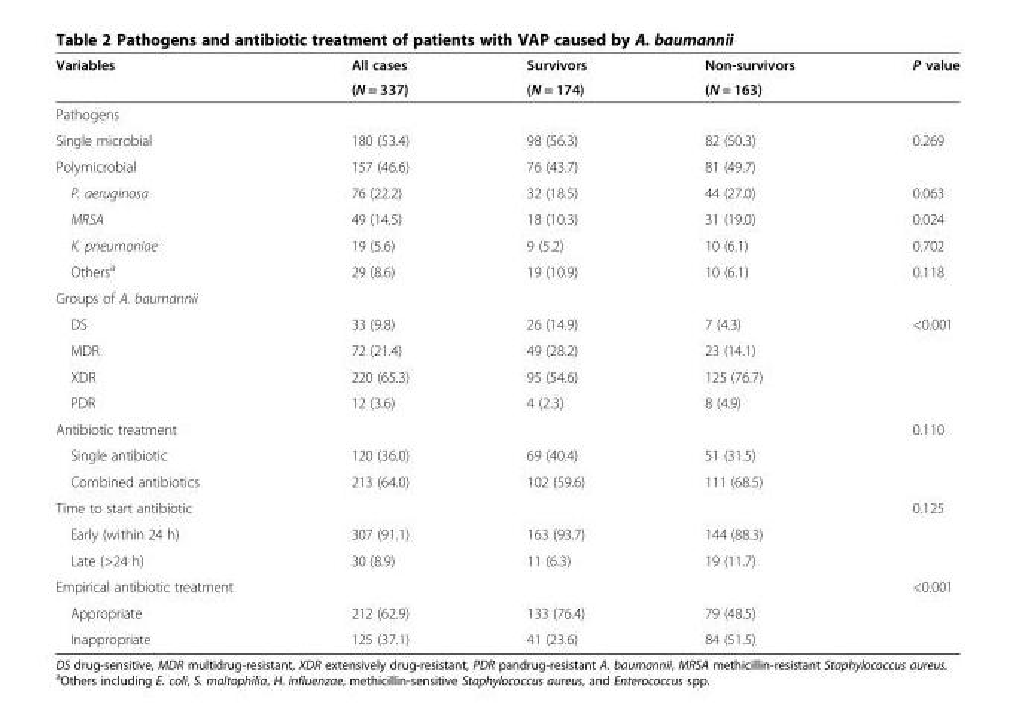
<table><thead><tr><td rowspan="2">Variables</td><td rowspan="2">All cases (N = 337)</td><td rowspan="2">Survivors (N = 174)</td><td rowspan="2">Non-survivors (N = 163)</td><td rowspan="2">P value</td></tr><tr></tr></thead><tbody><tr><td colspan="5">Pathogens</td></tr><tr><td>Single microbial</td><td>180 (53.4)</td><td>98 (56.3)</td><td>82 (50.3)</td><td rowspan="2">0.269</td></tr><tr><td>Polymicrobial</td><td>157 (46.6)</td><td>76 (43.7)</td><td>81 (49.7)</td></tr><tr><td>P. aeruginosa</td><td>76 (22.2)</td><td>32 (18.5)</td><td>44 (27.0)</td><td>0.063</td></tr><tr><td>MRSA</td><td>49 (14.5)</td><td>18 (10.3)</td><td>31 (19.0)</td><td>0.024</td></tr><tr><td>K. pneumoniae</td><td>19 (5.6)</td><td>9 (5.2)</td><td>10 (6.1)</td><td>0.702</td></tr><tr><td>Others<sup>a</sup></td><td>29 (8.6)</td><td>19 (10.9)</td><td>10 (6.1)</td><td>0.118</td></tr><tr><td colspan="5">Groups of A. baumannii</td></tr><tr><td>DS</td><td>33 (9.8)</td><td>26 (14.9)</td><td>7 (4.3)</td><td rowspan="4">&lt;0.001</td></tr><tr><td>MDR</td><td>72 (21.4)</td><td>49 (28.2)</td><td>23 (14.1)</td></tr><tr><td>XDR</td><td>220 (65.3)</td><td>95 (54.6)</td><td>125 (76.7)</td></tr><tr><td>PDR</td><td>12 (3.6)</td><td>4 (2.3)</td><td>8 (4.9)</td></tr><tr><td colspan="4">Antibiotic treatment</td><td rowspan="3">0.110</td></tr><tr><td>Single antibiotic</td><td>120 (36.0)</td><td>69 (40.4)</td><td>51 (31.5)</td></tr><tr><td>Combined antibiotics</td><td>213 (64.0)</td><td>102 (59.6)</td><td>111 (68.5)</td></tr><tr><td>Time to start antibiotic</td><td></td><td></td><td></td><td>0.125</td></tr><tr><td>Early (within 24 h)</td><td>307 (91.1)</td><td>163 (93.7)</td><td>144 (88.3)</td><td rowspan="2"></td></tr><tr><td>Late (&gt;24 h)</td><td>30 (8.9)</td><td>11 (6.3)</td><td>19 (11.7)</td></tr><tr><td colspan="4">Empirical antibiotic treatment</td><td rowspan="3">&lt;0.001</td></tr><tr><td>Appropriate</td><td>212 (62.9)</td><td>133 (76.4)</td><td>79 (48.5)</td></tr><tr><td>Inappropriate</td><td>125 (37.1)</td><td>41 (23.6)</td><td>84 (51.5)</td></tr></tbody></table>